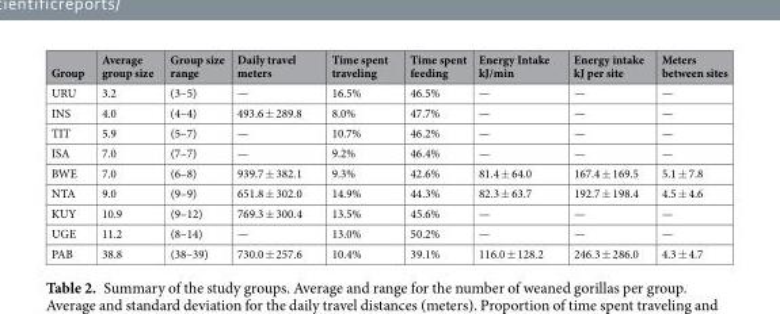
<table><thead><tr><td>Group</td><td>Average group size</td><td>Group size range</td><td>Daily travel meters</td><td>Time spent traveling</td><td>Time spent feeding</td><td>Energy Intake kJ/min</td><td>Energy intake kJ per site</td><td>Meters between sites</td></tr></thead><tbody><tr><td>URU</td><td>3.2</td><td>(3–5)</td><td>—</td><td>16.5%</td><td>46.5%</td><td>—</td><td>—</td><td>—</td></tr><tr><td>INS</td><td>4.0</td><td>(4–4)</td><td>493.6 ± 289.8</td><td>8.0%</td><td>47.7%</td><td>—</td><td>—</td><td>—</td></tr><tr><td>TIT</td><td>5.9</td><td>(5–7)</td><td>—</td><td>10.7%</td><td>46.2%</td><td>—</td><td>—</td><td>—</td></tr><tr><td>ISA</td><td>7.0</td><td>(7–7)</td><td>—</td><td>9.2%</td><td>46.4%</td><td>—</td><td>—</td><td>—</td></tr><tr><td>BWE</td><td>7.0</td><td>(6–8)</td><td>939.7 ± 382.1</td><td>9.3%</td><td>42.6%</td><td>81.4 ± 64.0</td><td>167.4 ± 169.5</td><td>5.1 ± 7.8</td></tr><tr><td>NTA</td><td>9.0</td><td>(9–9)</td><td>651.8 ± 302.0</td><td>14.9%</td><td>44.3%</td><td>82.3 ± 63.7</td><td>192.7 ± 198.4</td><td>4.5 ± 4.6</td></tr><tr><td>KUY</td><td>10.9</td><td>(9–12)</td><td>769.3 ± 300.4</td><td>13.5%</td><td>45.6%</td><td>—</td><td>—</td><td>—</td></tr><tr><td>UGE</td><td>11.2</td><td>(8–14)</td><td>—</td><td>13.0%</td><td>50.2%</td><td>—</td><td>—</td><td>—</td></tr><tr><td>PAB</td><td>38.8</td><td>(38–39)</td><td>730.0 ± 257.6</td><td>10.4%</td><td>39.1%</td><td>116.0 ± 128.2</td><td>246.3 ± 286.0</td><td>4.3 ± 4.7</td></tr></tbody></table>